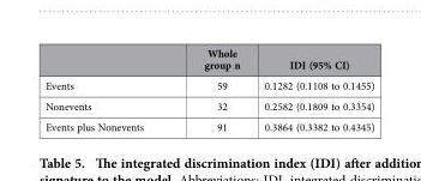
<table><thead><tr><td></td><td>Whole group n</td><td>IDI (95% CI)</td></tr></thead><tbody><tr><td>Events</td><td>59</td><td>0.1282 (0.1108 to 0.1455)</td></tr><tr><td>Nonevents</td><td>32</td><td>0.2582 (0.1809 to 0.3354)</td></tr><tr><td>Events plus Nonevents</td><td>91</td><td>0.3864 (0.3382 to 0.4345)</td></tr></tbody></table>